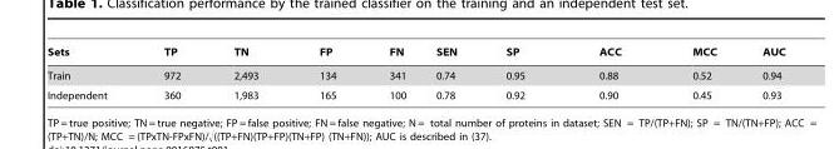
<table><thead><tr><td>Sets</td><td>TP</td><td>TN</td><td>FP</td><td>FN</td><td>SEN</td><td>SP</td><td>ACC</td><td>MCC</td><td>AUC</td></tr></thead><tbody><tr><td>Train</td><td>972</td><td>2,493</td><td>134</td><td>341</td><td>0.74</td><td>0.95</td><td>0.88</td><td>0.52</td><td>0.94</td></tr><tr><td>Independent</td><td>360</td><td>1,983</td><td>165</td><td>100</td><td>0.78</td><td>0.92</td><td>0.90</td><td>0.45</td><td>0.93</td></tr></tbody></table>